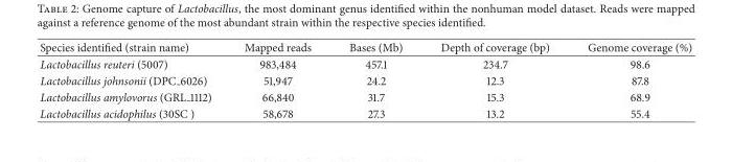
<table><thead><tr><td>Species identified (strain name)</td><td>Mapped reads</td><td>Bases (Mb)</td><td>Depth of coverage (bp)</td><td>Genome coverage (%)</td></tr></thead><tbody><tr><td>Lactobacillus reuteri (5007)</td><td>983,484</td><td>457.1</td><td>234.7</td><td>98.6</td></tr><tr><td>Lactobacillus johnsonii (DPC 6026)</td><td>51,947</td><td>24.2</td><td>12.3</td><td>87.8</td></tr><tr><td>Lactobacillus amylovorus (GRL 1112)</td><td>66,840</td><td>31.7</td><td>15.3</td><td>68.9</td></tr><tr><td>Lactobacillus acidophilus (30SC )</td><td>58,678</td><td>27.3</td><td>13.2</td><td>55.4</td></tr></tbody></table>